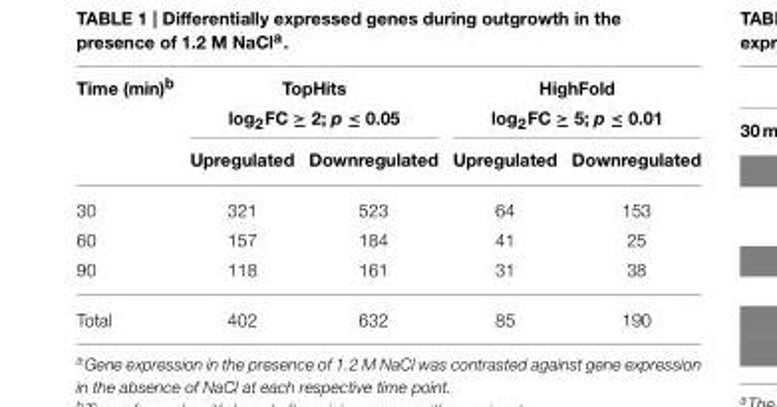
<table><thead><tr><td rowspan="2">Time (min)<sup>b</sup></td><td colspan="2">TopHits log<sub>2</sub>FC ≥ 2; p ≤ 0.05</td><td colspan="2">HighFold log<sub>2</sub>FC ≥ 5; p ≤ 0.01</td></tr><tr><td>Upregulated</td><td>Downregulated</td><td>Upregulated</td><td>Downregulated</td></tr></thead><tbody><tr><td>30</td><td>321</td><td>523</td><td>64</td><td>153</td></tr><tr><td>60</td><td>157</td><td>184</td><td>41</td><td>25</td></tr><tr><td>90</td><td>118</td><td>161</td><td>31</td><td>38</td></tr><tr><td>Total</td><td>402</td><td>632</td><td>85</td><td>190</td></tr></tbody></table>